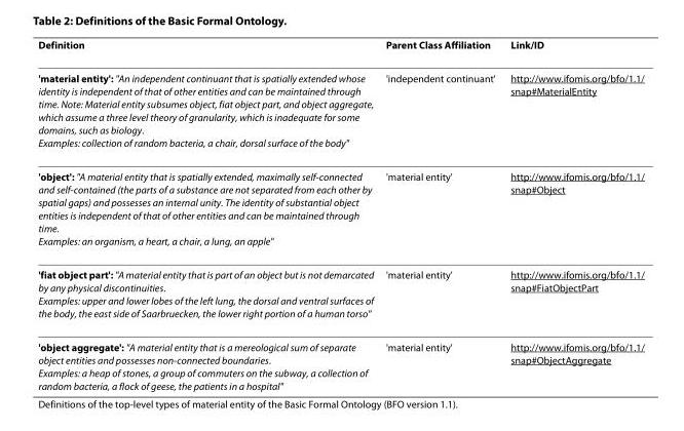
<table><thead><tr><td>Definition</td><td>Parent Class Affiliation</td><td>Link/ID</td></tr></thead><tbody><tr><td>&#x27;material entity&#x27;: &quot;An independent continuant that is spatially extended whose identity is independent of that of other entities and can be maintained through time. Note: Material entity subsumes object, fiat object part, and object aggregate, which assume a three level theory of granularity, which is inadequate for some domains, such as biology. Examples: collection of random bacteria, a chair, dorsal surface of the body&quot;</td><td>&#x27;independent continuant&#x27;</td><td>http://www.ifomis.org/bfo/1.1/ snap#MaterialEntity</td></tr><tr><td>&#x27;object&#x27;: &quot;A material entity that is spatially extended, maximally self-connected and self-contained (the parts of a substance are not separated from each other by spatial gaps) and possesses an internal unity. The identity of substantial object entities is independent of that of other entities and can be maintained through time. Examples: an organism, a heart, a chair, a lung, an apple&quot;</td><td>&#x27;material entity&#x27;</td><td>http://www.ifomis.org/bfo/1.1/ snap#Object</td></tr><tr><td>&#x27;fiat object part&#x27;: &quot;A material entity that is part of an object but is not demarcated by any physical discontinuities. Examples: upper and lower lobes of the left lung, the dorsal and ventral surfaces of the body, the east side of Saarbruecken, the lower right portion of a human torso&quot;</td><td>&#x27;material entity&#x27;</td><td>http://www.ifomis.org/bfo/1.1/ snap#FiatObjectPart</td></tr><tr><td>&#x27;object aggregate&#x27;: &quot;A material entity that is a mereological sum of separate object entities and possesses non-connected boundaries. Examples: a heap of stones, a group of commuters on the subway, a collection of random bacteria, a flock of geese, the patients in a hospital&quot;</td><td>&#x27;material entity&#x27;</td><td>http://www.ifomis.org/bfo/1.1/ snap#ObjectAggregate</td></tr></tbody></table>